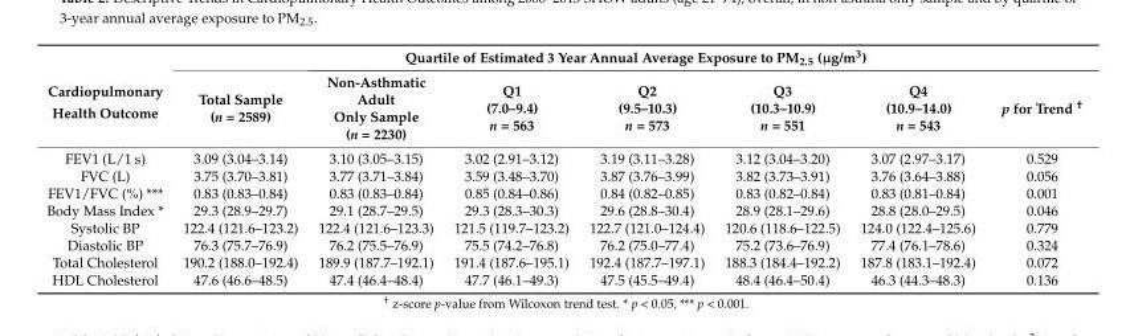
<table><thead><tr><td rowspan="2">Cardiopulmonary Health Outcome</td><td colspan="7">Quartile of Estimated 3 Year Annual Average Exposure to PM<sub>2.5</sub> (µg/m<sup>3</sup>)</td></tr><tr><td>Total Sample (n = 2589)</td><td>Non-Asthmatic Adult Only Sample (n = 2230)</td><td>Q1 (7.0–9.4) n = 563</td><td>Q2 (9.5–10.3) n = 573</td><td>Q3 (10.3–10.9) n = 551</td><td>Q4 (10.9–14.0) n = 543</td><td>p for Trend <sup>†</sup></td></tr></thead><tbody><tr><td>FEV1 (L/1 s)</td><td>3.09 (3.04–3.14)</td><td>3.10 (3.05–3.15)</td><td>3.02 (2.91–3.12)</td><td>3.19 (3.11–3.28)</td><td>3.12 (3.04–3.20)</td><td>3.07 (2.97–3.17)</td><td>0.529</td></tr><tr><td>FVC (L)</td><td>3.75 (3.70–3.81)</td><td>3.77 (3.71–3.84)</td><td>3.59 (3.48–3.70)</td><td>3.87 (3.76–3.99)</td><td>3.82 (3.73–3.91)</td><td>3.76 (3.64–3.88)</td><td>0.056</td></tr><tr><td>FEV1/FVC (%) ***</td><td>0.83 (0.83–0.84)</td><td>0.83 (0.83–0.84)</td><td>0.85 (0.84–0.86)</td><td>0.84 (0.82–0.85)</td><td>0.83 (0.82–0.84)</td><td>0.83 (0.81–0.84)</td><td>0.001</td></tr><tr><td>Body Mass Index *</td><td>29.3 (28.9–29.7)</td><td>29.1 (28.7–29.5)</td><td>29.3 (28.3–30.3)</td><td>29.6 (28.8–30.4)</td><td>28.9 (28.1–29.6)</td><td>28.8 (28.0–29.5)</td><td>0.046</td></tr><tr><td>Systolic BP</td><td>122.4 (121.6–123.2)</td><td>122.4 (121.6–123.3)</td><td>121.5 (119.7–123.2)</td><td>122.7 (121.0–124.4)</td><td>120.6 (118.6–122.5)</td><td>124.0 (122.4–125.6)</td><td>0.779</td></tr><tr><td>Diastolic BP</td><td>76.3 (75.7–76.9)</td><td>76.2 (75.5–76.9)</td><td>75.5 (74.2–76.8)</td><td>76.2 (75.0–77.4)</td><td>75.2 (73.6–76.9)</td><td>77.4 (76.1–78.6)</td><td>0.324</td></tr><tr><td>Total Cholesterol</td><td>190.2 (188.0–192.4)</td><td>189.9 (187.7–192.1)</td><td>191.4 (187.6–195.1)</td><td>192.4 (187.7–197.1)</td><td>188.3 (184.4–192.2)</td><td>187.8 (183.1–192.4)</td><td>0.072</td></tr><tr><td>HDL Cholesterol</td><td>47.6 (46.6–48.5)</td><td>47.4 (46.4–48.4)</td><td>47.7 (46.1–49.3)</td><td>47.5 (45.5–49.4)</td><td>48.4 (46.4–50.4)</td><td>46.3 (44.3–48.3)</td><td>0.136</td></tr></tbody></table>